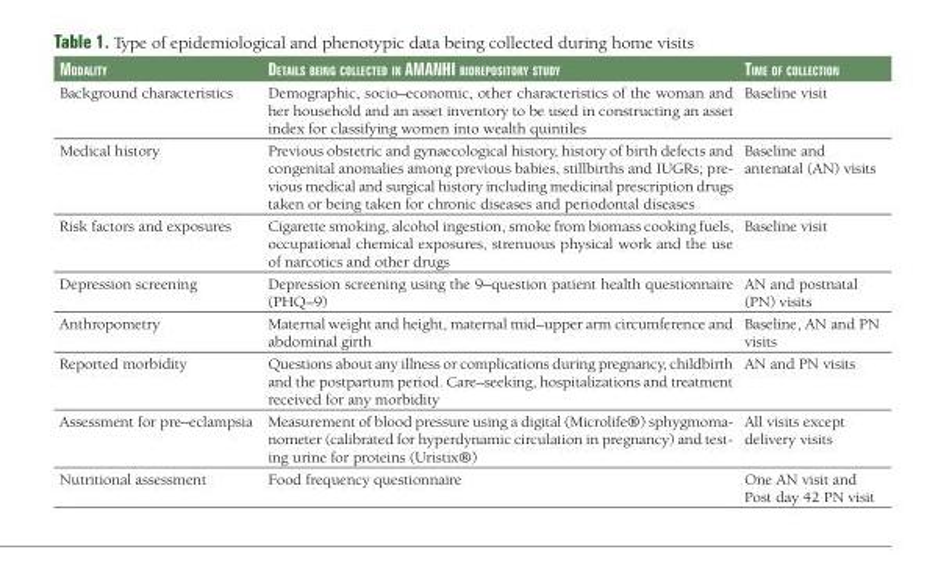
<table><thead><tr><td>Modality</td><td>details being collected in aManHi biorepository study</td><td>tiMe of collection</td></tr></thead><tbody><tr><td>Background characteristics</td><td>Demographic, socio–economic, other characteristics of the woman and her household and an asset inventory to be used in constructing an asset index for classifying women into wealth quintiles</td><td>Baseline visit</td></tr><tr><td>Medical history</td><td>Previous obstetric and gynaecological history, history of birth defects and congenital anomalies among previous babies, stillbirths and IUGRs; pre- vious medical and surgical history including medicinal prescription drugs taken or being taken for chronic diseases and periodontal diseases</td><td>Baseline and antenatal (AN) visits</td></tr><tr><td>Risk factors and exposures</td><td>Cigarette smoking, alcohol ingestion, smoke from biomass cooking fuels, occupational chemical exposures, strenuous physical work and the use of narcotics and other drugs</td><td>Baseline visit</td></tr><tr><td>Depression screening</td><td>Depression screening using the 9–question patient health questionnaire (PHQ–9)</td><td>AN and postnatal (PN) visits</td></tr><tr><td>Anthropometry</td><td>Maternal weight and height, maternal mid–upper arm circumference and abdominal girth</td><td>Baseline, AN and PN visits</td></tr><tr><td>Reported morbidity</td><td>Questions about any illness or complications during pregnancy, childbirth and the postpartum period. Care–seeking, hospitalizations and treatment received for any morbidity</td><td>AN and PN visits</td></tr><tr><td>Assessment for pre–eclampsia</td><td>Measurement of blood pressure using a digital (Microlife®) sphygmoma- nometer (calibrated for hyperdynamic circulation in pregnancy) and test- ing urine for proteins (Uristix®)</td><td>All visits except delivery visits</td></tr><tr><td>Nutritional assessment</td><td>Food frequency questionnaire</td><td>One AN visit and Post day 42 PN visit</td></tr></tbody></table>